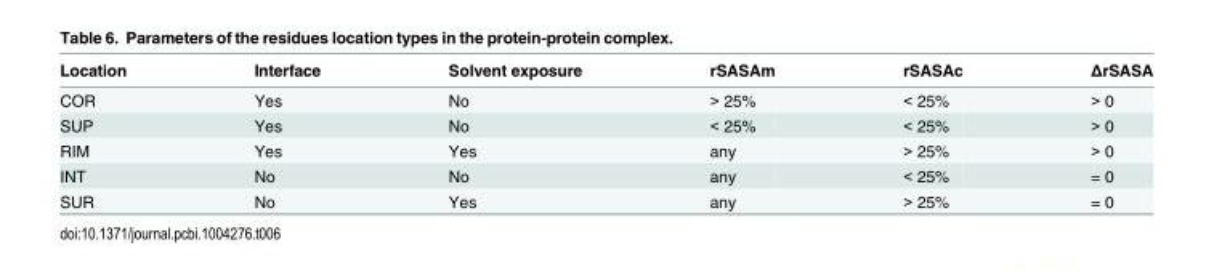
<table><thead><tr><td>Location</td><td>Interface</td><td>Solvent exposure</td><td>rSASAm</td><td>rSASAc</td><td>ΔrSASA</td></tr></thead><tbody><tr><td>COR</td><td>Yes</td><td>No</td><td>&gt; 25%</td><td>&lt; 25%</td><td>&gt; 0</td></tr><tr><td>SUP</td><td>Yes</td><td>No</td><td>&lt; 25%</td><td>&lt; 25%</td><td>&gt; 0</td></tr><tr><td>RIM</td><td>Yes</td><td>Yes</td><td>any</td><td>&gt; 25%</td><td>&gt; 0</td></tr><tr><td>INT</td><td>No</td><td>No</td><td>any</td><td>&lt; 25%</td><td>= 0</td></tr><tr><td>SUR</td><td>No</td><td>Yes</td><td>any</td><td>&gt; 25%</td><td>= 0</td></tr></tbody></table>